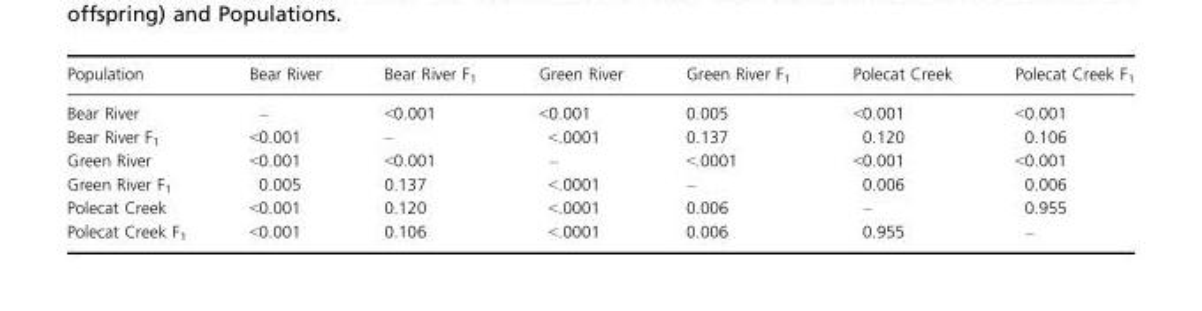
<table><thead><tr><td>Population</td><td>Bear River</td><td>Bear River F<sub>1</sub></td><td>Green River</td><td>Green River F<sub>1</sub></td><td>Polecat Creek</td><td>Polecat Creek F<sub>1</sub></td></tr></thead><tbody><tr><td>Bear River</td><td>–</td><td>&lt;0.001</td><td>&lt;0.001</td><td>0.005</td><td>&lt;0.001</td><td>&lt;0.001</td></tr><tr><td>Bear River F<sub>1</sub></td><td>&lt;0.001</td><td>–</td><td>&lt;.0001</td><td>0.137</td><td>0.120</td><td>0.106</td></tr><tr><td>Green River</td><td>&lt;0.001</td><td>&lt;0.001</td><td>–</td><td>&lt;.0001</td><td>&lt;0.001</td><td>&lt;0.001</td></tr><tr><td>Green River F<sub>1</sub></td><td>0.005</td><td>0.137</td><td>&lt;.0001</td><td>–</td><td>0.006</td><td>0.006</td></tr><tr><td>Polecat Creek</td><td>&lt;0.001</td><td>0.120</td><td>&lt;.0001</td><td>0.006</td><td>–</td><td>0.955</td></tr><tr><td>Polecat Creek F<sub>1</sub></td><td>&lt;0.001</td><td>0.106</td><td>&lt;.0001</td><td>0.006</td><td>0.955</td><td>–</td></tr></tbody></table>